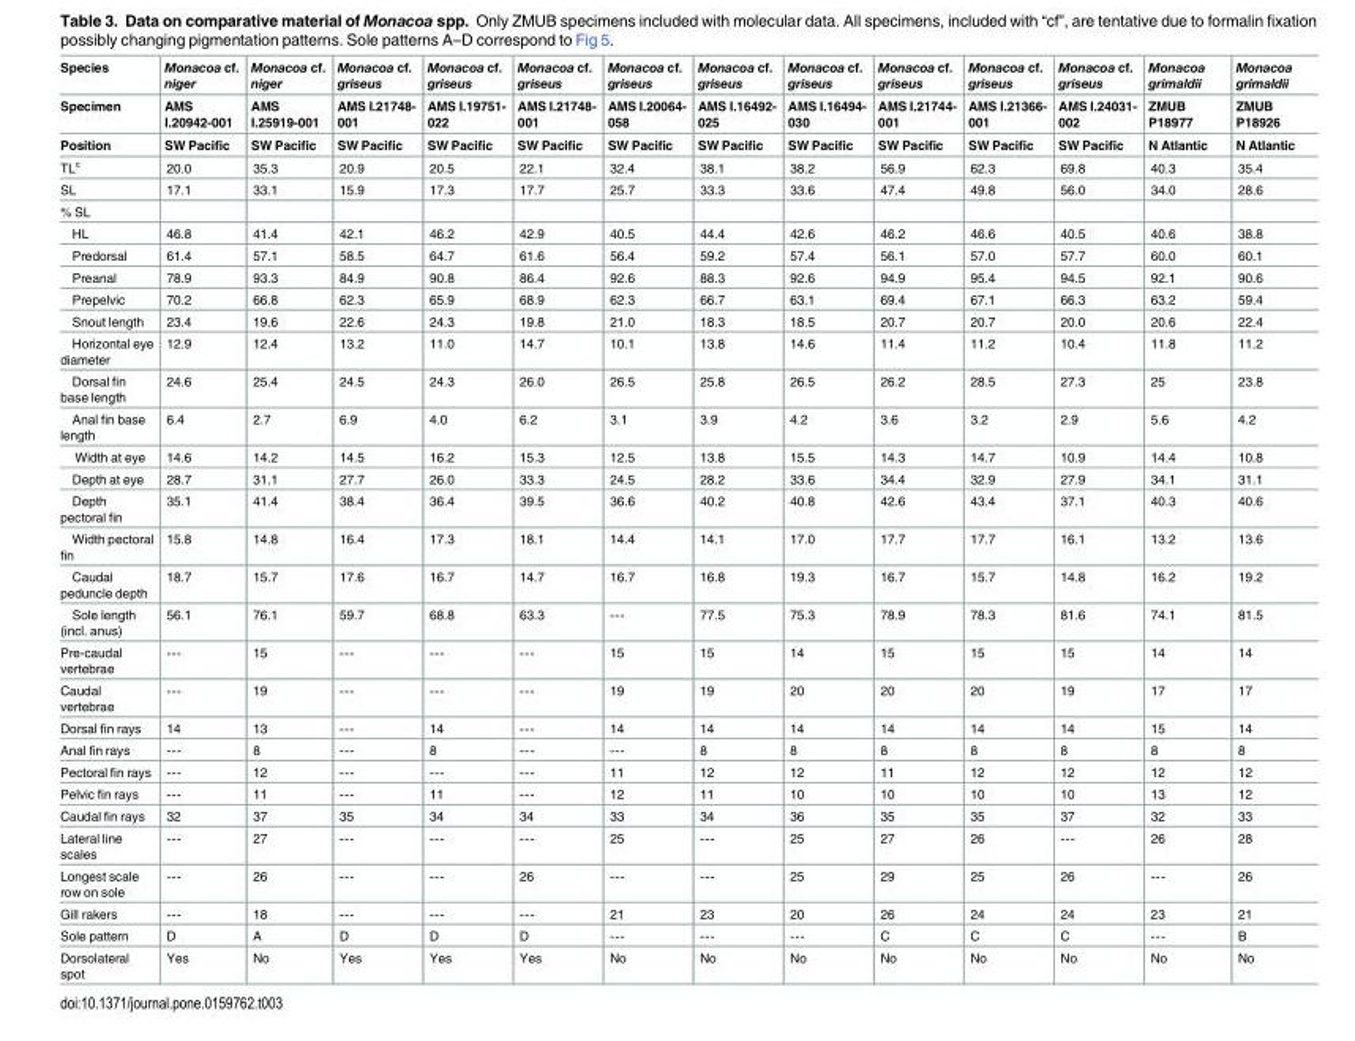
<table><thead><tr><td rowspan="3">Species Specimen Position</td><td rowspan="3">Monacoa cf. niger AMS I.20942-001 SW Pacific</td><td rowspan="3">Monacoa cf. niger AMS I.25919-001 SW Pacific</td><td rowspan="3">Monacoa cf. griseus AMS I.21748- 001 SW Pacific</td><td rowspan="3">Monacoa cf. griseus AMS I.19751- 022 SW Pacific</td><td rowspan="3">Monacoa cf. griseus AMS I.21748- 001 SW Pacific</td><td rowspan="3">Monacoa cf. griseus AMS I.20064- 058 SW Pacific</td><td rowspan="3">Monacoa cf. griseus AMS I.16492- 025 SW Pacific</td><td rowspan="3">Monacoa cf. griseus AMS I.16494- 030 SW Pacific</td><td rowspan="3">Monacoa cf. griseus AMS I.21744- 001 SW Pacific</td><td rowspan="3">Monacoa cf. griseus AMS I.21366- 001 SW Pacific</td><td rowspan="3">Monacoa cf. griseus AMS I.24031- 002 SW Pacific</td><td rowspan="3">Monacoa grimaldii ZMUB P18977 N Atlantic</td><td rowspan="3">Monacoa grimaldii ZMUB P18926 N Atlantic</td></tr><tr></tr><tr></tr></thead><tbody><tr><td>TL<sup>c</sup></td><td>20.0</td><td>35.3</td><td>20.9</td><td>20.5</td><td>22.1</td><td>32.4</td><td>38.1</td><td>38.2</td><td>56.9</td><td>62.3</td><td>69.8</td><td>40.3</td><td>35.4</td></tr><tr><td>SL</td><td>17.1</td><td>33.1</td><td>15.9</td><td>17.3</td><td>17.7</td><td>25.7</td><td>33.3</td><td>33.6</td><td>47.4</td><td>49.8</td><td>56.0</td><td>34.0</td><td>28.6</td></tr><tr><td colspan="14">% SL</td></tr><tr><td>HL</td><td>46.8</td><td>41.4</td><td>42.1</td><td>46.2</td><td>42.9</td><td>40.5</td><td>44.4</td><td>42.6</td><td>46.2</td><td>46.6</td><td>40.5</td><td>40.6</td><td>38.8</td></tr><tr><td>Predorsal</td><td>61.4</td><td>57.1</td><td>58.5</td><td>64.7</td><td>61.6</td><td>56.4</td><td>59.2</td><td>57.4</td><td>56.1</td><td>57.0</td><td>57.7</td><td>60.0</td><td>60.1</td></tr><tr><td>Preanal</td><td>78.9</td><td>93.3</td><td>84.9</td><td>90.8</td><td>86.4</td><td>92.6</td><td>88.3</td><td>92.6</td><td>94.9</td><td>95.4</td><td>94.5</td><td>92.1</td><td>90.6</td></tr><tr><td>Prepelvic</td><td>70.2</td><td>66.8</td><td>62.3</td><td>65.9</td><td>68.9</td><td>62.3</td><td>66.7</td><td>63.1</td><td>69.4</td><td>67.1</td><td>66.3</td><td>63.2</td><td>59.4</td></tr><tr><td>Snout length</td><td>23.4</td><td>19.6</td><td>22.6</td><td>24.3</td><td>19.8</td><td>21.0</td><td>18.3</td><td>18.5</td><td>20.7</td><td>20.7</td><td>20.0</td><td>20.6</td><td>22.4</td></tr><tr><td>Horizontal eye diameter</td><td>12.9</td><td>12.4</td><td>13.2</td><td>11.0</td><td>14.7</td><td>10.1</td><td>13.8</td><td>14.6</td><td>11.4</td><td>11.2</td><td>10.4</td><td>11.8</td><td>11.2</td></tr><tr><td>Dorsal fin base length</td><td>24.6</td><td>25.4</td><td>24.5</td><td>24.3</td><td>26.0</td><td>26.5</td><td>25.8</td><td>26.5</td><td>26.2</td><td>28.5</td><td>27.3</td><td>25</td><td>23.8</td></tr><tr><td>Anal fin base length</td><td>6.4</td><td>2.7</td><td>6.9</td><td>4.0</td><td>6.2</td><td>3.1</td><td>3.9</td><td>4.2</td><td>3.6</td><td>3.2</td><td>2.9</td><td>5.6</td><td>4.2</td></tr><tr><td>Width at eye</td><td>14.6</td><td>14.2</td><td>14.5</td><td>16.2</td><td>15.3</td><td>12.5</td><td>13.8</td><td>15.5</td><td>14.3</td><td>14.7</td><td>10.9</td><td>14.4</td><td>10.8</td></tr><tr><td>Depth at eye</td><td>28.7</td><td>31.1</td><td>27.7</td><td>26.0</td><td>33.3</td><td>24.5</td><td>28.2</td><td>33.6</td><td>34.4</td><td>32.9</td><td>27.9</td><td>34.1</td><td>31.1</td></tr><tr><td>Depth pectoral fin</td><td>35.1</td><td>41.4</td><td>38.4</td><td>36.4</td><td>39.5</td><td>36.6</td><td>40.2</td><td>40.8</td><td>42.6</td><td>43.4</td><td>37.1</td><td>40.3</td><td>40.6</td></tr><tr><td>Width pectoral fin</td><td>15.8</td><td>14.8</td><td>16.4</td><td>17.3</td><td>18.1</td><td>14.4</td><td>14.1</td><td>17.0</td><td>17.7</td><td>17.7</td><td>16.1</td><td>13.2</td><td>13.6</td></tr><tr><td>Caudal peduncle depth</td><td>18.7</td><td>15.7</td><td>17.6</td><td>16.7</td><td>14.7</td><td>16.7</td><td>16.8</td><td>19.3</td><td>16.7</td><td>15.7</td><td>14.8</td><td>16.2</td><td>19.2</td></tr><tr><td>Sole length (incl. anus)</td><td>56.1</td><td>76.1</td><td>59.7</td><td>68.8</td><td>63.3</td><td>---</td><td>77.5</td><td>75.3</td><td>78.9</td><td>78.3</td><td>81.6</td><td>74.1</td><td>81.5</td></tr><tr><td>Pre-caudal vertebrae</td><td>---</td><td>15</td><td>---</td><td>---</td><td>---</td><td>15</td><td>15</td><td>14</td><td>15</td><td>15</td><td>15</td><td>14</td><td>14</td></tr><tr><td>Caudal vertebrae</td><td>---</td><td>19</td><td>---</td><td>---</td><td>---</td><td>19</td><td>19</td><td>20</td><td>20</td><td>20</td><td>19</td><td>17</td><td>17</td></tr><tr><td>Dorsal fin rays</td><td>14</td><td>13</td><td>---</td><td>14</td><td>---</td><td>14</td><td>14</td><td>14</td><td>14</td><td>14</td><td>14</td><td>15</td><td>14</td></tr><tr><td>Anal fin rays</td><td>---</td><td>8</td><td>---</td><td>8</td><td>---</td><td>---</td><td>8</td><td>8</td><td>8</td><td>8</td><td>8</td><td>8</td><td>8</td></tr><tr><td>Pectoral fin rays</td><td>---</td><td>12</td><td>---</td><td>---</td><td>---</td><td>11</td><td>12</td><td>12</td><td>11</td><td>12</td><td>12</td><td>12</td><td>12</td></tr><tr><td>Pelvic fin rays</td><td>---</td><td>11</td><td>---</td><td>11</td><td>---</td><td>12</td><td>11</td><td>10</td><td>10</td><td>10</td><td>10</td><td>13</td><td>12</td></tr><tr><td>Caudal fin rays</td><td>32</td><td>37</td><td>35</td><td>34</td><td>34</td><td>33</td><td>34</td><td>36</td><td>35</td><td>35</td><td>37</td><td>32</td><td>33</td></tr><tr><td>Lateral line scales</td><td>---</td><td>27</td><td>---</td><td>---</td><td>---</td><td>25</td><td>---</td><td>25</td><td>27</td><td>26</td><td>---</td><td>26</td><td>28</td></tr><tr><td>Longest scale row on sole</td><td>---</td><td>26</td><td>---</td><td>---</td><td>26</td><td>---</td><td>---</td><td>25</td><td>29</td><td>25</td><td>26</td><td>---</td><td>26</td></tr><tr><td>Gill rakers</td><td>---</td><td>18</td><td>---</td><td>---</td><td>---</td><td>21</td><td>23</td><td>20</td><td>26</td><td>24</td><td>24</td><td>23</td><td>21</td></tr><tr><td>Sole pattern</td><td>D</td><td>A</td><td>D</td><td>D</td><td>D</td><td>---</td><td>---</td><td>---</td><td>C</td><td>C</td><td>C</td><td>---</td><td>B</td></tr><tr><td>Dorsolateral spot</td><td>Yes</td><td>No</td><td>Yes</td><td>Yes</td><td>Yes</td><td>No</td><td>No</td><td>No</td><td>No</td><td>No</td><td>No</td><td>No</td><td>No</td></tr></tbody></table>